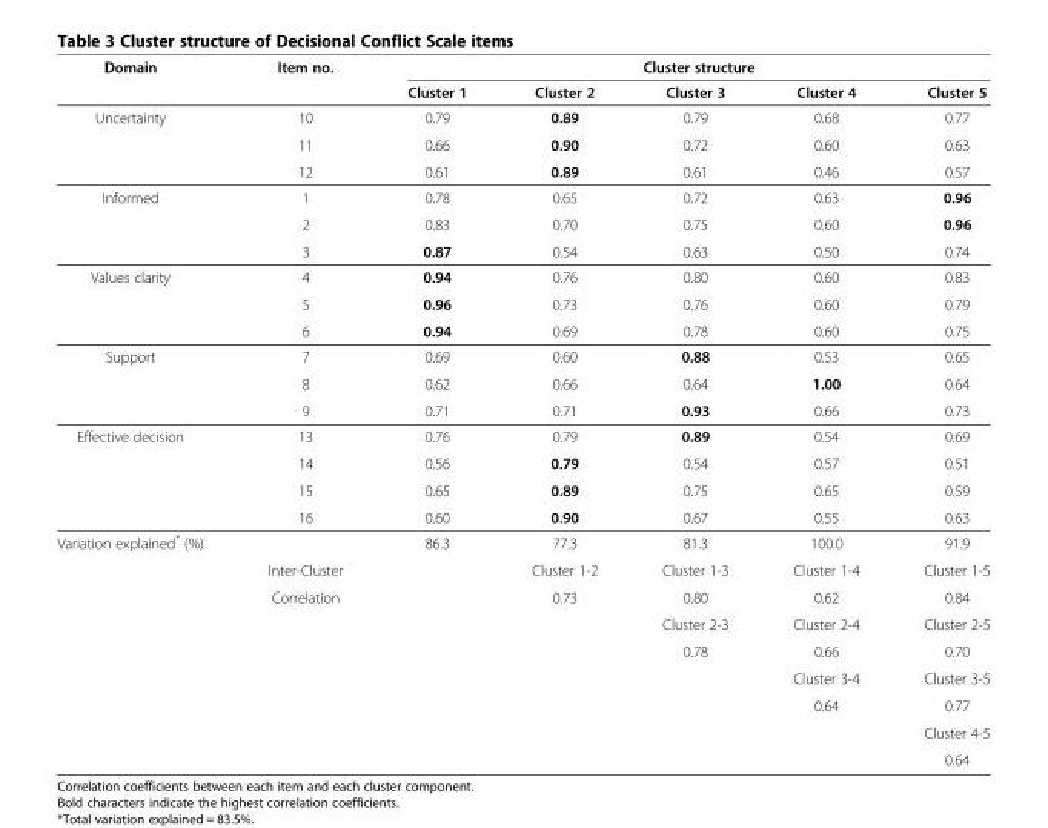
<table><thead><tr><td rowspan="2">Domain</td><td rowspan="2">Item no.</td><td colspan="5">Cluster structure</td></tr><tr><td>Cluster 1</td><td>Cluster 2</td><td>Cluster 3</td><td>Cluster 4</td><td>Cluster 5</td></tr></thead><tbody><tr><td rowspan="3">Uncertainty</td><td>10</td><td>0.79</td><td>0.89</td><td>0.79</td><td>0.68</td><td>0.77</td></tr><tr><td>11</td><td>0.66</td><td>0.90</td><td>0.72</td><td>0.60</td><td>0.63</td></tr><tr><td>12</td><td>0.61</td><td>0.89</td><td>0.61</td><td>0.46</td><td>0.57</td></tr><tr><td rowspan="3">Informed</td><td>1</td><td>0.78</td><td>0.65</td><td>0.72</td><td>0.63</td><td>0.96</td></tr><tr><td>2</td><td>0.83</td><td>0.70</td><td>0.75</td><td>0.60</td><td>0.96</td></tr><tr><td>3</td><td>0.87</td><td>0.54</td><td>0.63</td><td>0.50</td><td>0.74</td></tr><tr><td rowspan="3">Values clarity</td><td>4</td><td>0.94</td><td>0.76</td><td>0.80</td><td>0.60</td><td>0.83</td></tr><tr><td>5</td><td>0.96</td><td>0.73</td><td>0.76</td><td>0.60</td><td>0.79</td></tr><tr><td>6</td><td>0.94</td><td>0.69</td><td>0.78</td><td>0.60</td><td>0.75</td></tr><tr><td rowspan="3">Support</td><td>7</td><td>0.69</td><td>0.60</td><td>0.88</td><td>0.53</td><td>0.65</td></tr><tr><td>8</td><td>0.62</td><td>0.66</td><td>0.64</td><td>1.00</td><td>0.64</td></tr><tr><td>9</td><td>0.71</td><td>0.71</td><td>0.93</td><td>0.66</td><td>0.73</td></tr><tr><td rowspan="4">Effective decision</td><td>13</td><td>0.76</td><td>0.79</td><td>0.89</td><td>0.54</td><td>0.69</td></tr><tr><td>14</td><td>0.56</td><td>0.79</td><td>0.54</td><td>0.57</td><td>0.51</td></tr><tr><td>15</td><td>0.65</td><td>0.89</td><td>0.75</td><td>0.65</td><td>0.59</td></tr><tr><td>16</td><td>0.60</td><td>0.90</td><td>0.67</td><td>0.55</td><td>0.63</td></tr><tr><td rowspan="9">Variation explained* (%)</td><td></td><td>86.3</td><td>77.3</td><td>81.3</td><td>100.0</td><td>91.9</td></tr><tr><td>Inter-Cluster</td><td></td><td>Cluster 1-2</td><td>Cluster 1-3</td><td>Cluster 1-4</td><td>Cluster 1-5</td></tr><tr><td>Correlation</td><td></td><td>0.73</td><td>0.80</td><td>0.62</td><td>0.84</td></tr><tr><td></td><td></td><td></td><td>Cluster 2-3</td><td>Cluster 2-4</td><td>Cluster 2-5</td></tr><tr><td></td><td></td><td></td><td>0.78</td><td>0.66</td><td>0.70</td></tr><tr><td></td><td></td><td></td><td></td><td>Cluster 3-4</td><td>Cluster 3-5</td></tr><tr><td></td><td></td><td></td><td></td><td>0.64</td><td>0.77</td></tr><tr><td></td><td></td><td></td><td></td><td></td><td>Cluster 4-5</td></tr><tr><td></td><td></td><td></td><td></td><td></td><td>0.64</td></tr></tbody></table>